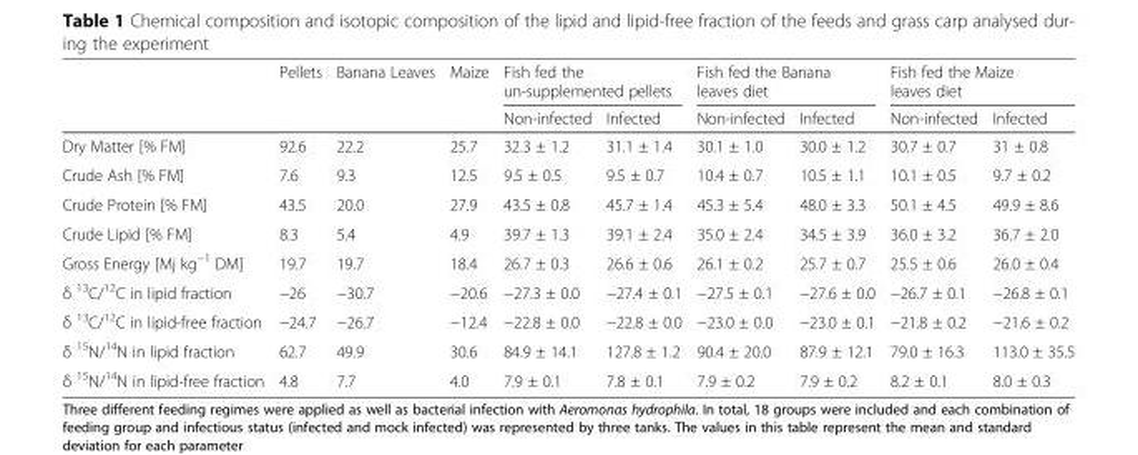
<table><thead><tr><td rowspan="2"></td><td rowspan="2">Pellets</td><td rowspan="2">Banana Leaves</td><td rowspan="2">Maize</td><td colspan="2">Fish fed the un-supplemented pellets</td><td colspan="2">Fish fed the Banana leaves diet</td><td colspan="2">Fish fed the Maize leaves diet</td></tr><tr><td>Non-infected</td><td>Infected</td><td>Non-infected</td><td>Infected</td><td>Non-infected</td><td>Infected</td></tr></thead><tbody><tr><td>Dry Matter [% FM]</td><td>92.6</td><td>22.2</td><td>25.7</td><td>32.3 ± 1.2</td><td>31.1 ± 1.4</td><td>30.1 ± 1.0</td><td>30.0 ± 1.2</td><td>30.7 ± 0.7</td><td>31 ± 0.8</td></tr><tr><td>Crude Ash [% FM]</td><td>7.6</td><td>9.3</td><td>12.5</td><td>9.5 ± 0.5</td><td>9.5 ± 0.7</td><td>10.4 ± 0.7</td><td>10.5 ± 1.1</td><td>10.1 ± 0.5</td><td>9.7 ± 0.2</td></tr><tr><td>Crude Protein [% FM]</td><td>43.5</td><td>20.0</td><td>27.9</td><td>43.5 ± 0.8</td><td>45.7 ± 1.4</td><td>45.3 ± 5.4</td><td>48.0 ± 3.3</td><td>50.1 ± 4.5</td><td>49.9 ± 8.6</td></tr><tr><td>Crude Lipid [% FM]</td><td>8.3</td><td>5.4</td><td>4.9</td><td>39.7 ± 1.3</td><td>39.1 ± 2.4</td><td>35.0 ± 2.4</td><td>34.5 ± 3.9</td><td>36.0 ± 3.2</td><td>36.7 ± 2.0</td></tr><tr><td>Gross Energy [Mj kg<sup>−1</sup> DM]</td><td>19.7</td><td>19.7</td><td>18.4</td><td>26.7 ± 0.3</td><td>26.6 ± 0.6</td><td>26.1 ± 0.2</td><td>25.7 ± 0.7</td><td>25.5 ± 0.6</td><td>26.0 ± 0.4</td></tr><tr><td>δ <sup>13</sup>C/<sup>12</sup>C in lipid fraction</td><td>−26</td><td>−30.7</td><td>−20.6</td><td>−27.3 ± 0.0</td><td>−27.4 ± 0.1</td><td>−27.5 ± 0.1</td><td>−27.6 ± 0.0</td><td>−26.7 ± 0.1</td><td>−26.8 ± 0.1</td></tr><tr><td>δ <sup>13</sup>C/<sup>12</sup>C in lipid-free fraction</td><td>−24.7</td><td>−26.7</td><td>−12.4</td><td>−22.8 ± 0.0</td><td>−22.8 ± 0.0</td><td>−23.0 ± 0.0</td><td>−23.0 ± 0.1</td><td>−21.8 ± 0.2</td><td>−21.6 ± 0.2</td></tr><tr><td>δ <sup>15</sup>N/<sup>14</sup>N in lipid fraction</td><td>62.7</td><td>49.9</td><td>30.6</td><td>84.9 ± 14.1</td><td>127.8 ± 1.2</td><td>90.4 ± 20.0</td><td>87.9 ± 12.1</td><td>79.0 ± 16.3</td><td>113.0 ± 35.5</td></tr><tr><td>δ <sup>15</sup>N/<sup>14</sup>N in lipid-free fraction</td><td>4.8</td><td>7.7</td><td>4.0</td><td>7.9 ± 0.1</td><td>7.8 ± 0.1</td><td>7.9 ± 0.2</td><td>7.9 ± 0.2</td><td>8.2 ± 0.1</td><td>8.0 ± 0.3</td></tr></tbody></table>